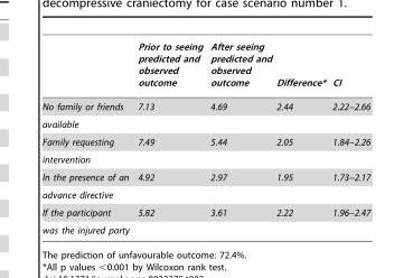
<table><thead><tr><td></td><td>Prior to seeing predicted and observed outcome</td><td>After seeing predicted and observed outcome</td><td>Difference*</td><td>CI</td></tr></thead><tbody><tr><td>No family or friends</td><td>7.13</td><td>4.69</td><td>2.44</td><td>2.22–2.66</td></tr><tr><td colspan="5">available</td></tr><tr><td>Family requesting</td><td>7.49</td><td>5.44</td><td>2.05</td><td>1.84–2.26</td></tr><tr><td colspan="5">intervention</td></tr><tr><td>In the presence of an</td><td>4.92</td><td>2.97</td><td>1.95</td><td>1.73–2.17</td></tr><tr><td colspan="5">advance directive</td></tr><tr><td>If the participant</td><td>5.82</td><td>3.61</td><td>2.22</td><td>1.96–2.47</td></tr><tr><td>was the injured party</td><td></td><td></td><td></td><td></td></tr></tbody></table>